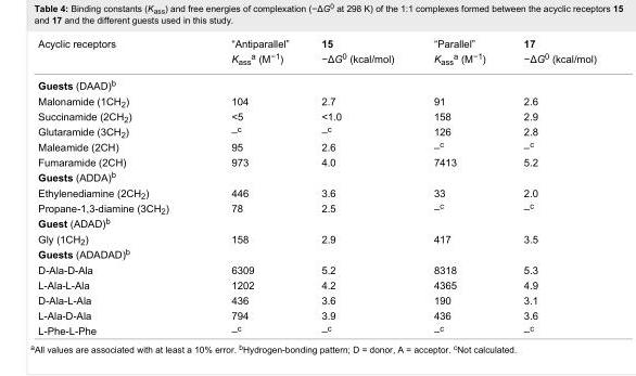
<table><tbody><tr><td rowspan="2">Acyclic receptors</td><td>“Antiparallel”</td><td>15</td><td>“Parallel”</td><td>17</td></tr><tr><td>K<sub>ass</sub><sup>a</sup> (M<sup>−1</sup>)</td><td>−ΔG<sup>0</sup> (kcal/mol)</td><td>K<sub>ass</sub><sup>a</sup> (M<sup>−1</sup>)</td><td>−ΔG<sup>0</sup> (kcal/mol)</td></tr><tr><td colspan="5">Guests (DAAD)<sup>b</sup></td></tr><tr><td>Malonamide (1CH<sub>2</sub>)</td><td>104</td><td>2.7</td><td>91</td><td>2.6</td></tr><tr><td>Succinamide (2CH<sub>2</sub>)</td><td>&lt;5</td><td>&lt;1.0</td><td>158</td><td>2.9</td></tr><tr><td>Glutaramide (3CH<sub>2</sub>)</td><td>–<sup>c</sup></td><td>–<sup>c</sup></td><td>126</td><td>2.8</td></tr><tr><td>Maleamide (2CH)</td><td>95</td><td>2.6</td><td>–<sup>c</sup></td><td>–<sup>c</sup></td></tr><tr><td>Fumaramide (2CH)</td><td>973</td><td>4.0</td><td>7413</td><td>5.2</td></tr><tr><td colspan="5">Guests (ADDA)<sup>b</sup></td></tr><tr><td>Ethylenediamine (2CH<sub>2</sub>)</td><td>446</td><td>3.6</td><td>33</td><td>2.0</td></tr><tr><td>Propane-1,3-diamine (3CH<sub>2</sub>)</td><td>78</td><td>2.5</td><td>–<sup>c</sup></td><td>–<sup>c</sup></td></tr><tr><td colspan="5">Guest (ADAD)<sup>b</sup></td></tr><tr><td>Gly (1CH<sub>2</sub>)</td><td>158</td><td>2.9</td><td>417</td><td>3.5</td></tr><tr><td colspan="5">Guests (ADADAD)<sup>b</sup></td></tr><tr><td>D-Ala-D-Ala</td><td>6309</td><td>5.2</td><td>8318</td><td>5.3</td></tr><tr><td>L-Ala-L-Ala</td><td>1202</td><td>4.2</td><td>4365</td><td>4.9</td></tr><tr><td>D-Ala-L-Ala</td><td>436</td><td>3.6</td><td>190</td><td>3.1</td></tr><tr><td>L-Ala-D-Ala</td><td>794</td><td>3.9</td><td>436</td><td>3.6</td></tr><tr><td>L-Phe-L-Phe</td><td>–<sup>c</sup></td><td>–<sup>c</sup></td><td>–<sup>c</sup></td><td>–<sup>c</sup></td></tr></tbody></table>